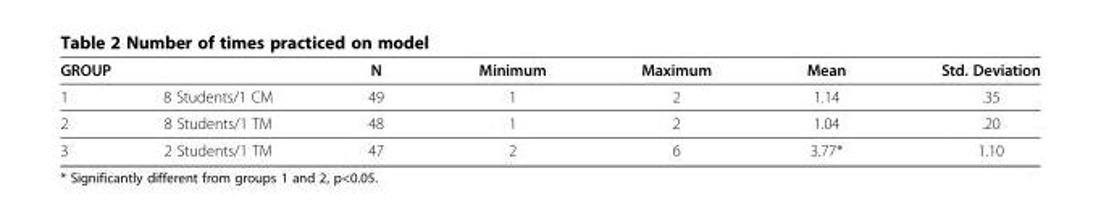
<table><thead><tr><td colspan="2">GROUP</td><td rowspan="2">N 49</td><td rowspan="2">Minimum 1</td><td rowspan="2">Maximum 2</td><td rowspan="2">Mean 1.14</td><td rowspan="2">Std. Deviation .35</td></tr><tr><td>1</td><td>8 Students/1 CM</td></tr></thead><tbody><tr><td>2</td><td>8 Students/1 TM</td><td>48</td><td>1</td><td>2</td><td>1.04</td><td>.20</td></tr><tr><td>3</td><td>2 Students/1 TM</td><td>47</td><td>2</td><td>6</td><td>3.77*</td><td>1.10</td></tr></tbody></table>